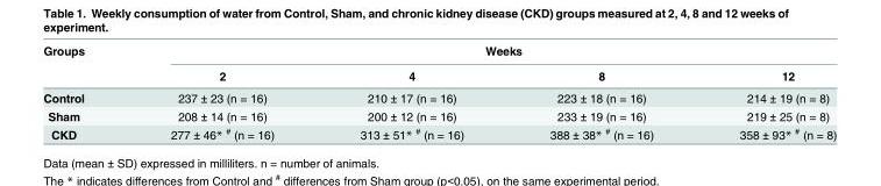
<table><thead><tr><td rowspan="2">Groups</td><td colspan="4">Weeks</td></tr><tr><td>2</td><td>4</td><td>8</td><td>12</td></tr></thead><tbody><tr><td>Control</td><td>237 ± 23 (n = 16)</td><td>210 ± 17 (n = 16)</td><td>223 ± 18 (n = 16)</td><td>214 ± 19 (n = 8)</td></tr><tr><td>Sham</td><td>208 ± 14 (n = 16)</td><td>200 ± 12 (n = 16)</td><td>233 ± 19 (n = 16)</td><td>219 ± 25 (n = 8)</td></tr><tr><td>CKD</td><td>277 ± 46* <sup>#</sup> (n = 16)</td><td>313 ± 51* <sup>#</sup> (n = 16)</td><td>388 ± 38* <sup>#</sup> (n = 16)</td><td>358 ± 93* <sup>#</sup> (n = 8)</td></tr></tbody></table>